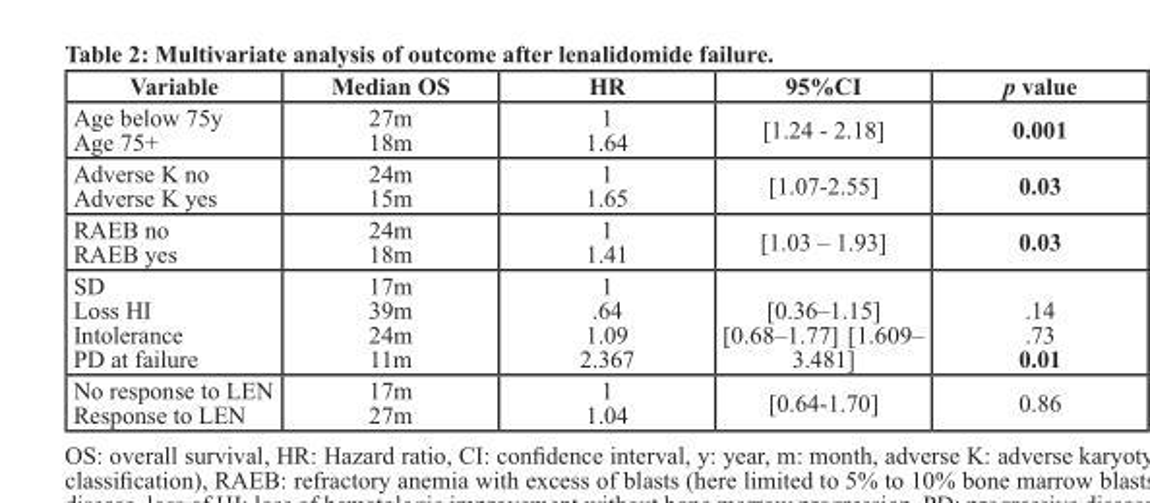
<table><thead><tr><td>Variable</td><td>Median OS</td><td>HR</td><td>95%CI</td><td>p value</td></tr></thead><tbody><tr><td>Age below 75y Age 75+</td><td>27m 18m</td><td>1 1.64</td><td>[1.24 - 2.18]</td><td>0.001</td></tr><tr><td>Adverse K no Adverse K yes</td><td>24m 15m</td><td>1 1.65</td><td>[1.07-2.55]</td><td>0.03</td></tr><tr><td>RAEB no RAEB yes</td><td>24m 18m</td><td>1 1.41</td><td>[1.03 – 1.93]</td><td>0.03</td></tr><tr><td>SD Loss HI Intolerance PD at failure</td><td>17m 39m 24m 11m</td><td>1 .64 1.09 2.367</td><td>[0.36–1.15] [0.68–1.77] [1.609– 3.481]</td><td>.14 .73 0.01</td></tr><tr><td>No response to LEN Response to LEN</td><td>17m 27m</td><td>1 1.04</td><td>[0.64-1.70]</td><td>0.86</td></tr></tbody></table>